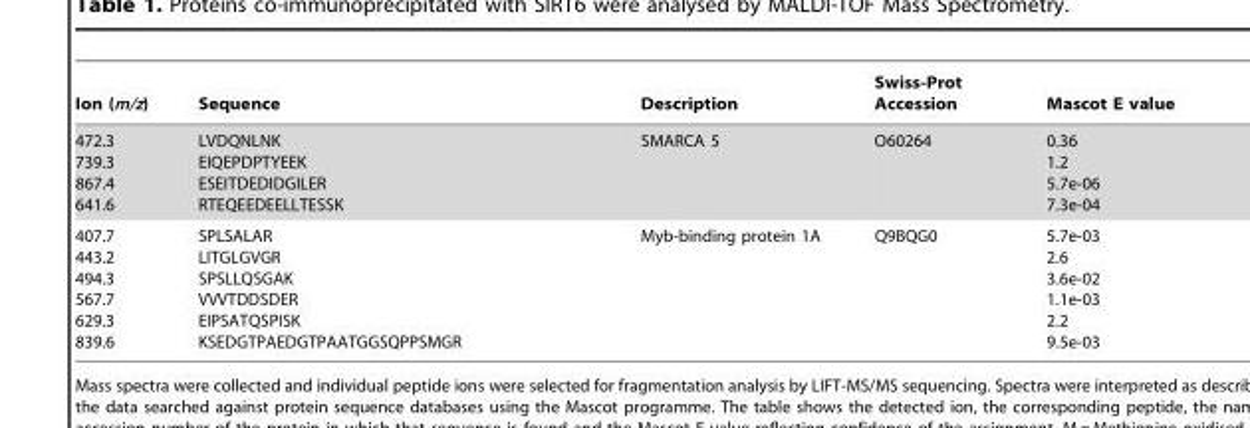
<table><thead><tr><td>Ion (m/z)</td><td>Sequence</td><td>Description</td><td>Swiss-Prot Accession</td><td>Mascot E value</td></tr></thead><tbody><tr><td>472.3 739.3 867.4 641.6</td><td>LVDQNLNK EIQEPDPTYEEK ESEITDEDIDGILER RTEQEEDEELLTESSK</td><td>SMARCA 5</td><td>O60264</td><td>0.36 1.2 5.7e-06 7.3e-04</td></tr><tr><td>407.7 443.2 494.3 567.7 629.3 839.6</td><td>SPLSALAR LITGLGVGR SPSLLQSGAK VVVTDDSDER EIPSATQSPISK KSEDGTPAEDGTPAATGGSQPPSMGR</td><td>Myb-binding protein 1A</td><td>Q9BQG0</td><td>5.7e-03 2.6 3.6e-02 1.1e-03 2.2 9.5e-03</td></tr></tbody></table>